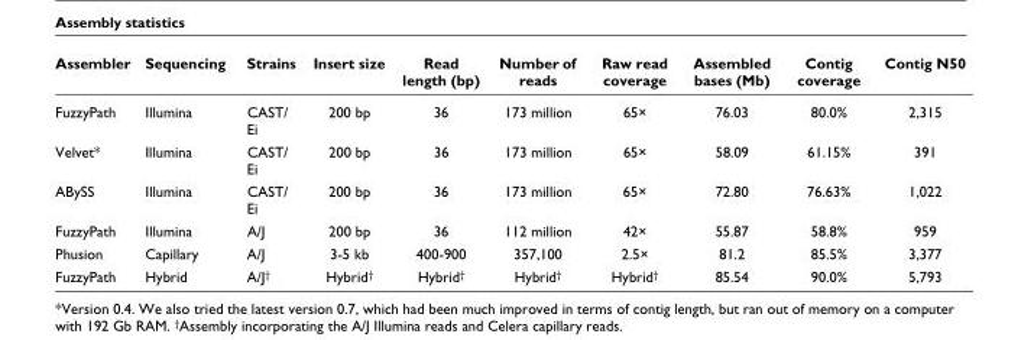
<table><thead><tr><td>Assembler</td><td>Sequencing</td><td>Strains</td><td>Insert size</td><td>Read length (bp)</td><td>Number of reads</td><td>Raw read coverage</td><td>Assembled bases (Mb)</td><td>Contig coverage</td><td>Contig N50</td></tr></thead><tbody><tr><td>FuzzyPath</td><td>Illumina</td><td>CAST/ Ei</td><td>200 bp</td><td>36</td><td>173 million</td><td>65×</td><td>76.03</td><td>80.0%</td><td>2,315</td></tr><tr><td>Velvet*</td><td>Illumina</td><td>CAST/ Ei</td><td>200 bp</td><td>36</td><td>173 million</td><td>65×</td><td>58.09</td><td>61.15%</td><td>391</td></tr><tr><td>ABySS</td><td>Illumina</td><td>CAST/ Ei</td><td>200 bp</td><td>36</td><td>173 million</td><td>65×</td><td>72.80</td><td>76.63%</td><td>1,022</td></tr><tr><td>FuzzyPath</td><td>Illumina</td><td>A/J</td><td>200 bp</td><td>36</td><td>112 million</td><td>42×</td><td>55.87</td><td>58.8%</td><td>959</td></tr><tr><td>Phusion</td><td>Capillary</td><td>A/J</td><td>3-5 kb</td><td>400-900</td><td>357,100</td><td>2.5×</td><td>81.2</td><td>85.5%</td><td>3,377</td></tr><tr><td>FuzzyPath</td><td>Hybrid</td><td>A/J<sup>†</sup></td><td>Hybrid<sup>†</sup></td><td>Hybrid<sup>†</sup></td><td>Hybrid<sup>†</sup></td><td>Hybrid<sup>†</sup></td><td>85.54</td><td>90.0%</td><td>5,793</td></tr></tbody></table>